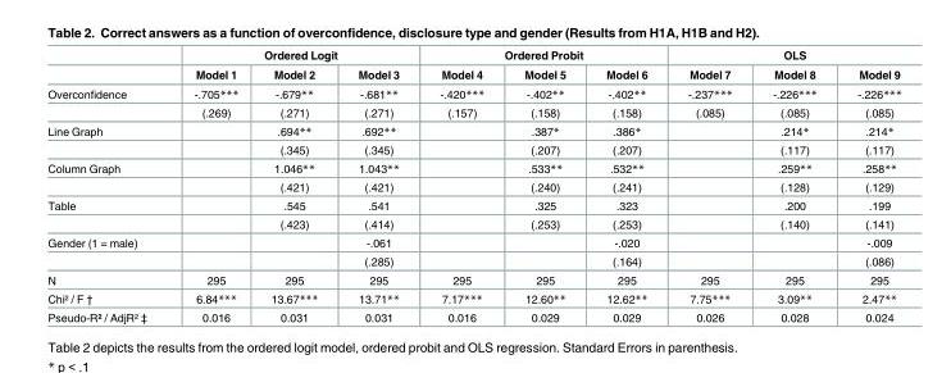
<table><thead><tr><td rowspan="2"></td><td colspan="3">Ordered Logit</td><td colspan="3">Ordered Probit</td><td colspan="3">OLS</td></tr><tr><td>Model 1</td><td>Model 2</td><td>Model 3</td><td>Model 4</td><td>Model 5</td><td>Model 6</td><td>Model 7</td><td>Model 8</td><td>Model 9</td></tr></thead><tbody><tr><td rowspan="2">Overconfidence</td><td>-.705***</td><td>-.679**</td><td>-.681**</td><td>-.420***</td><td>-.402**</td><td>-.402**</td><td>-.237***</td><td>-.226***</td><td>-.226***</td></tr><tr><td>(.269)</td><td>(.271)</td><td>(.271)</td><td>(.157)</td><td>(.158)</td><td>(.158)</td><td>(.085)</td><td>(.085)</td><td>(.085)</td></tr><tr><td rowspan="2">Line Graph</td><td></td><td>.694**</td><td>.692**</td><td></td><td>.387*</td><td>.386*</td><td></td><td>.214*</td><td>.214*</td></tr><tr><td></td><td>(.345)</td><td>(.345)</td><td></td><td>(.207)</td><td>(.207)</td><td></td><td>(.117)</td><td>(.117)</td></tr><tr><td rowspan="2">Column Graph</td><td></td><td>1.046**</td><td>1.043**</td><td></td><td>.533**</td><td>.532**</td><td></td><td>.259**</td><td>.258**</td></tr><tr><td></td><td>(.421)</td><td>(.421)</td><td></td><td>(.240)</td><td>(.241)</td><td></td><td>(.128)</td><td>(.129)</td></tr><tr><td rowspan="2">Table</td><td></td><td>.545</td><td>.541</td><td></td><td>.325</td><td>.323</td><td></td><td>.200</td><td>.199</td></tr><tr><td></td><td>(.423)</td><td>(.414)</td><td></td><td>(.253)</td><td>(.253)</td><td></td><td>(.140)</td><td>(.141)</td></tr><tr><td rowspan="2">Gender (1 = male)</td><td></td><td></td><td>-.061</td><td></td><td></td><td>-.020</td><td></td><td></td><td>-.009</td></tr><tr><td></td><td></td><td>(.285)</td><td></td><td></td><td>(.164)</td><td></td><td></td><td>(.086)</td></tr><tr><td>N</td><td>295</td><td>295</td><td>295</td><td>295</td><td>295</td><td>295</td><td>295</td><td>295</td><td>295</td></tr><tr><td>Chi² / F †</td><td>6.84***</td><td>13.67***</td><td>13.71**</td><td>7.17***</td><td>12.60**</td><td>12.62**</td><td>7.75***</td><td>3.09**</td><td>2.47**</td></tr><tr><td>Pseudo-R² / AdjR² ‡</td><td>0.016</td><td>0.031</td><td>0.031</td><td>0.016</td><td>0.029</td><td>0.029</td><td>0.026</td><td>0.028</td><td>0.024</td></tr></tbody></table>